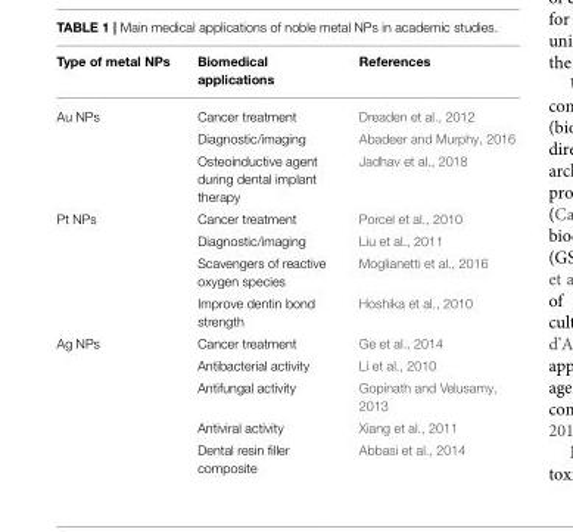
<table><thead><tr><td>Type of metal NPs</td><td>Biomedical applications</td><td>References</td></tr></thead><tbody><tr><td rowspan="3">Au NPs</td><td>Cancer treatment</td><td>Dreaden et al., 2012</td></tr><tr><td>Diagnostic/imaging</td><td>Abadeer and Murphy, 2016</td></tr><tr><td>Osteoinductive agent during dental implant therapy</td><td>Jadhav et al., 2018</td></tr><tr><td rowspan="4">Pt NPs</td><td>Cancer treatment</td><td>Porcel et al., 2010</td></tr><tr><td>Diagnostic/imaging</td><td>Liu et al., 2011</td></tr><tr><td>Scavengers of reactive oxygen species</td><td>Moglianetti et al., 2016</td></tr><tr><td>Improve dentin bond strength</td><td>Hoshika et al., 2010</td></tr><tr><td rowspan="5">Ag NPs</td><td>Cancer treatment</td><td>Ge et al., 2014</td></tr><tr><td>Antibacterial activity</td><td>Li et al., 2010</td></tr><tr><td>Antifungal activity</td><td>Gopinath and Velusamy, 2013</td></tr><tr><td>Antiviral activity</td><td>Xiang et al., 2011</td></tr><tr><td>Dental resin filler composite</td><td>Abbasi et al., 2014</td></tr></tbody></table>